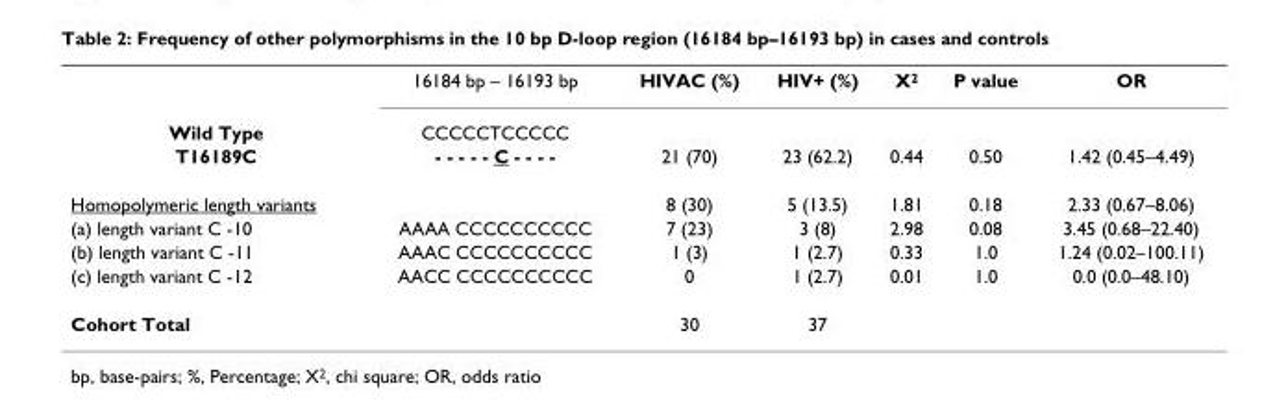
<table><thead><tr><td></td><td>16184 bp – 16193 bp</td><td>HIVAC (%)</td><td>HIV+ (%)</td><td>X<sup>2</sup></td><td>P value</td><td>OR</td></tr></thead><tbody><tr><td>Wild Type</td><td>CCCCCTCCCCC</td><td></td><td></td><td></td><td></td><td></td></tr><tr><td>T16189C</td><td>- - - - - C - - - -</td><td>21 (70)</td><td>23 (62.2)</td><td>0.44</td><td>0.50</td><td>1.42 (0.45–4.49)</td></tr><tr><td>Homopolymeric length variants</td><td></td><td>8 (30)</td><td>5 (13.5)</td><td>1.81</td><td>0.18</td><td>2.33 (0.67–8.06)</td></tr><tr><td>(a) length variant C -10</td><td>AAAA CCCCCCCCCC</td><td>7 (23)</td><td>3 (8)</td><td>2.98</td><td>0.08</td><td>3.45 (0.68–22.40)</td></tr><tr><td>(b) length variant C -11</td><td>AAAC CCCCCCCCCC</td><td>1 (3)</td><td>1 (2.7)</td><td>0.33</td><td>1.0</td><td>1.24 (0.02–100.11)</td></tr><tr><td>(c) length variant C -12</td><td>AACC CCCCCCCCCC</td><td>0</td><td>1 (2.7)</td><td>0.01</td><td>1.0</td><td>0.0 (0.0–48.10)</td></tr><tr><td>Cohort Total</td><td></td><td>30</td><td>37</td><td></td><td></td><td></td></tr></tbody></table>